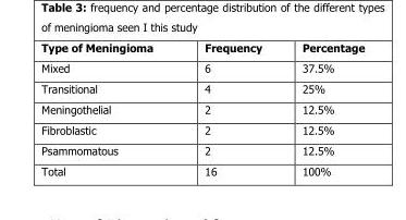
<table><thead><tr><td>Type of Meningioma</td><td>Frequency</td><td>Percentage</td></tr></thead><tbody><tr><td>Mixed</td><td>6</td><td>37.5%</td></tr><tr><td>Transitional</td><td>4</td><td>25%</td></tr><tr><td>Meningothelial</td><td>2</td><td>12.5%</td></tr><tr><td>Fibroblastic</td><td>2</td><td>12.5%</td></tr><tr><td>Psammomatous</td><td>2</td><td>12.5%</td></tr><tr><td>Total</td><td>16</td><td>100%</td></tr></tbody></table>